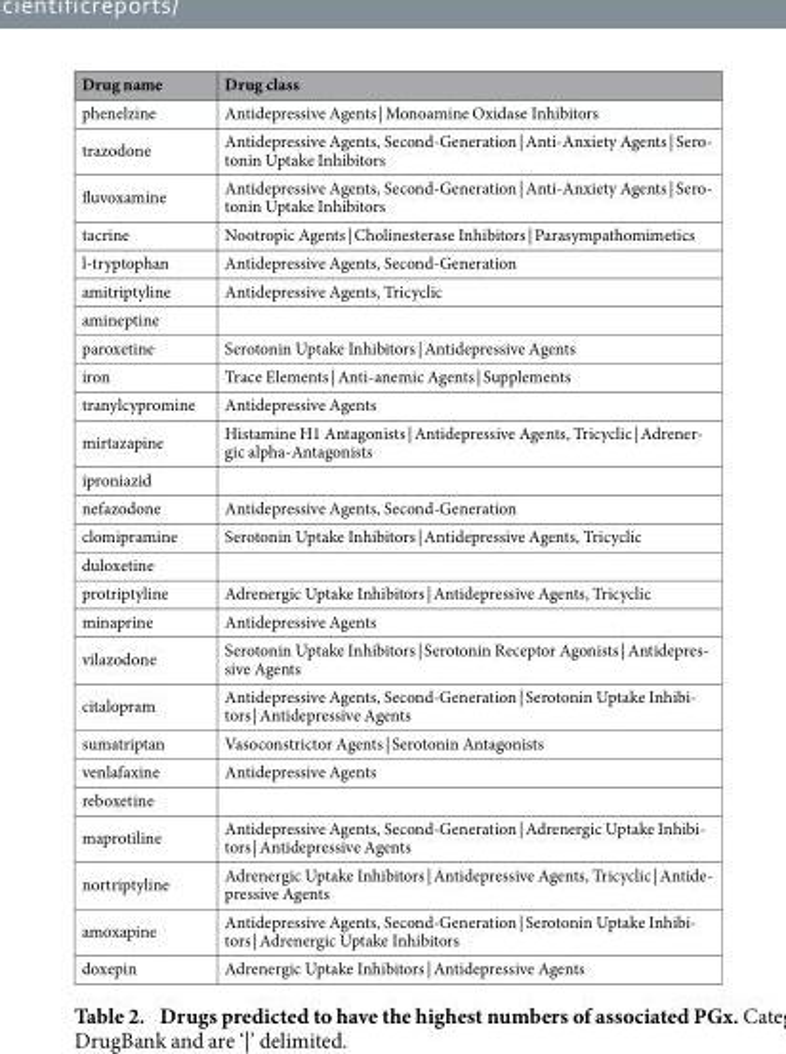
<table><thead><tr><td>Drug name</td><td>Drug class</td></tr></thead><tbody><tr><td>phenelzine</td><td>Antidepressive Agents | Monoamine Oxidase Inhibitors</td></tr><tr><td>trazodone</td><td>Antidepressive Agents, Second-Generation | Anti-Anxiety Agents | Sero- tonin Uptake Inhibitors</td></tr><tr><td>fluvoxamine</td><td>Antidepressive Agents, Second-Generation | Anti-Anxiety Agents | Sero- tonin Uptake Inhibitors</td></tr><tr><td>tacrine</td><td>Nootropic Agents | Cholinesterase Inhibitors | Parasympathomimetics</td></tr><tr><td>l-tryptophan</td><td>Antidepressive Agents, Second-Generation</td></tr><tr><td>amitriptyline</td><td>Antidepressive Agents, Tricyclic</td></tr><tr><td colspan="2">amineptine</td></tr><tr><td>paroxetine</td><td>Serotonin Uptake Inhibitors | Antidepressive Agents</td></tr><tr><td>iron</td><td>Trace Elements | Anti-anemic Agents | Supplements</td></tr><tr><td>tranylcypromine</td><td>Antidepressive Agents</td></tr><tr><td>mirtazapine</td><td>Histamine H1 Antagonists | Antidepressive Agents, Tricyclic | Adrener- gic alpha-Antagonists</td></tr><tr><td colspan="2">iproniazid</td></tr><tr><td>nefazodone</td><td>Antidepressive Agents, Second-Generation</td></tr><tr><td>clomipramine</td><td>Serotonin Uptake Inhibitors | Antidepressive Agents, Tricyclic</td></tr><tr><td colspan="2">duloxetine</td></tr><tr><td>protriptyline</td><td>Adrenergic Uptake Inhibitors | Antidepressive Agents, Tricyclic</td></tr><tr><td>minaprine</td><td>Antidepressive Agents</td></tr><tr><td>vilazodone</td><td>Serotonin Uptake Inhibitors | Serotonin Receptor Agonists | Antidepres- sive Agents</td></tr><tr><td>citalopram</td><td>Antidepressive Agents, Second-Generation | Serotonin Uptake Inhibi- tors | Antidepressive Agents</td></tr><tr><td>sumatriptan</td><td>Vasoconstrictor Agents | Serotonin Antagonists</td></tr><tr><td>venlafaxine</td><td>Antidepressive Agents</td></tr><tr><td colspan="2">reboxetine</td></tr><tr><td>maprotiline</td><td>Antidepressive Agents, Second-Generation | Adrenergic Uptake Inhibi- tors | Antidepressive Agents</td></tr><tr><td>nortriptyline</td><td>Adrenergic Uptake Inhibitors | Antidepressive Agents, Tricyclic | Antide- pressive Agents</td></tr><tr><td>amoxapine</td><td>Antidepressive Agents, Second-Generation | Serotonin Uptake Inhibi- tors | Adrenergic Uptake Inhibitors</td></tr><tr><td>doxepin</td><td>Adrenergic Uptake Inhibitors | Antidepressive Agents</td></tr></tbody></table>